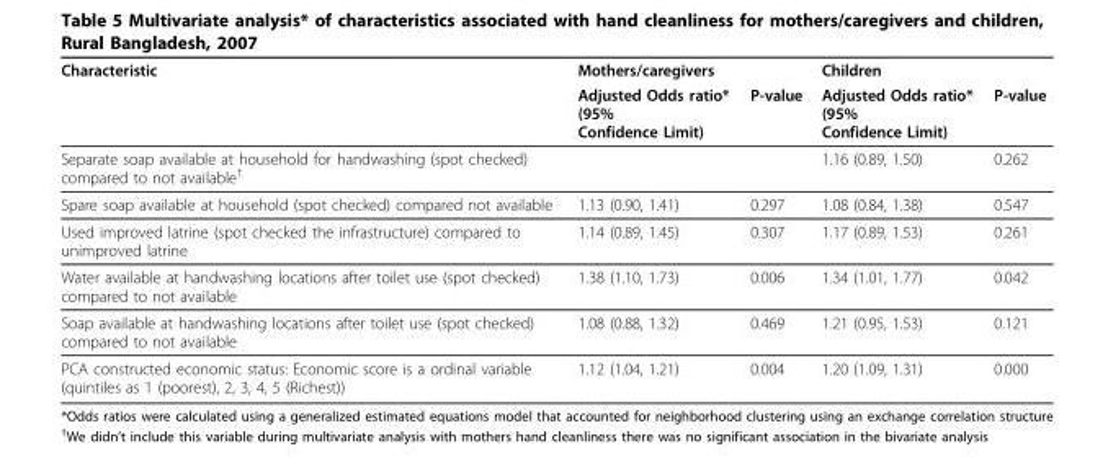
<table><thead><tr><td rowspan="2">Characteristic</td><td colspan="2">Mothers/caregivers</td><td colspan="2">Children</td></tr><tr><td>Adjusted Odds ratio* (95% Confidence Limit)</td><td>P-value</td><td>Adjusted Odds ratio* (95% Confidence Limit)</td><td>P-value</td></tr></thead><tbody><tr><td>Separate soap available at household for handwashing (spot checked) compared to not available<sup>†</sup></td><td></td><td></td><td>1.16 (0.89, 1.50)</td><td>0.262</td></tr><tr><td>Spare soap available at household (spot checked) compared not available</td><td>1.13 (0.90, 1.41)</td><td>0.297</td><td>1.08 (0.84, 1.38)</td><td>0.547</td></tr><tr><td>Used improved latrine (spot checked the infrastructure) compared to unimproved latrine</td><td>1.14 (0.89, 1.45)</td><td>0.307</td><td>1.17 (0.89, 1.53)</td><td>0.261</td></tr><tr><td>Water available at handwashing locations after toilet use (spot checked) compared to not available</td><td>1.38 (1.10, 1.73)</td><td>0.006</td><td>1.34 (1.01, 1.77)</td><td>0.042</td></tr><tr><td>Soap available at handwashing locations after toilet use (spot checked) compared to not available</td><td>1.08 (0.88, 1.32)</td><td>0.469</td><td>1.21 (0.95, 1.53)</td><td>0.121</td></tr><tr><td>PCA constructed economic status: Economic score is a ordinal variable (quintiles as 1 (poorest), 2, 3, 4, 5 (Richest))</td><td>1.12 (1.04, 1.21)</td><td>0.004</td><td>1.20 (1.09, 1.31)</td><td>0.000</td></tr></tbody></table>